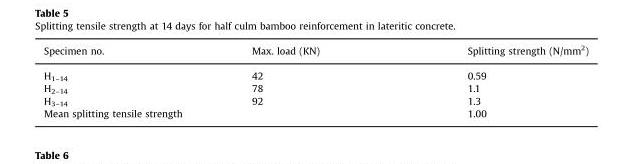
<table><thead><tr><td>Specimen no.</td><td>Max. load (KN)</td><td>Splitting strength (N/mm<sup>2</sup>)</td></tr></thead><tbody><tr><td>H<sub>1–14</sub></td><td>42</td><td>0.59</td></tr><tr><td>H<sub>2–14</sub></td><td>78</td><td>1.1</td></tr><tr><td>H<sub>3–14</sub></td><td>92</td><td>1.3</td></tr><tr><td colspan="2">Mean splitting tensile strength</td><td>1.00</td></tr></tbody></table>